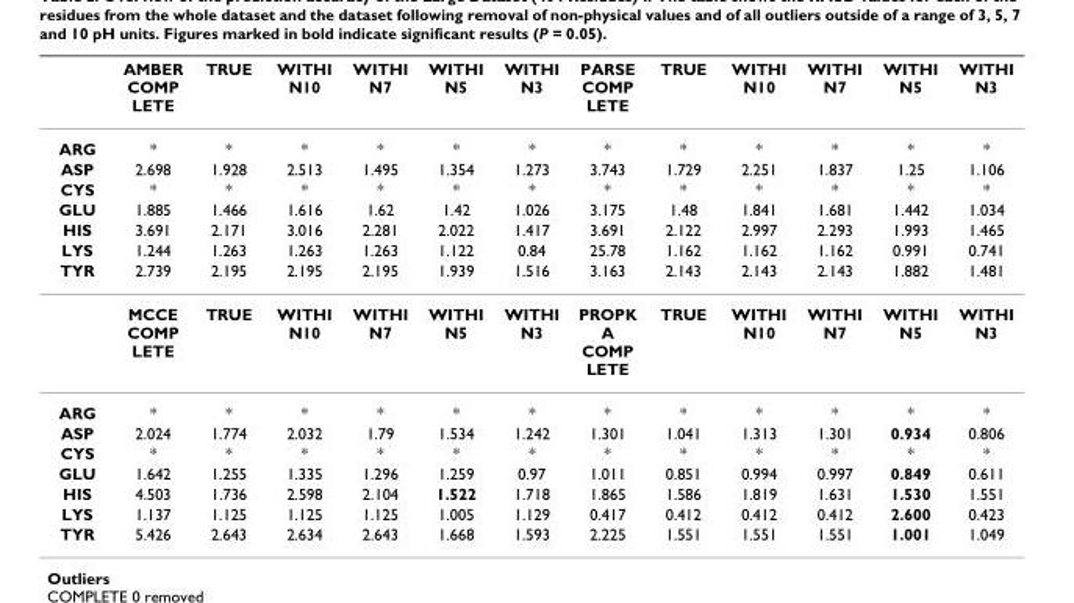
<table><thead><tr><td></td><td>AMBER COMP LETE</td><td>TRUE</td><td>WITHI N10</td><td>WITHI N7</td><td>WITHI N5</td><td>WITHI N3</td><td>PARSE COMP LETE</td><td>TRUE</td><td>WITHI N10</td><td>WITHI N7</td><td>WITHI N5</td><td>WITHI N3</td></tr></thead><tbody><tr><td>ARG</td><td>*</td><td>*</td><td>*</td><td>*</td><td>*</td><td>*</td><td>*</td><td>*</td><td>*</td><td>*</td><td>*</td><td>*</td></tr><tr><td>ASP</td><td>2.698</td><td>1.928</td><td>2.513</td><td>1.495</td><td>1.354</td><td>1.273</td><td>3.743</td><td>1.729</td><td>2.251</td><td>1.837</td><td>1.25</td><td>1.106</td></tr><tr><td>CYS</td><td>*</td><td>*</td><td>*</td><td>*</td><td>*</td><td>*</td><td>*</td><td>*</td><td>*</td><td>*</td><td>*</td><td>*</td></tr><tr><td>GLU</td><td>1.885</td><td>1.466</td><td>1.616</td><td>1.62</td><td>1.42</td><td>1.026</td><td>3.175</td><td>1.48</td><td>1.841</td><td>1.681</td><td>1.442</td><td>1.034</td></tr><tr><td>HIS</td><td>3.691</td><td>2.171</td><td>3.016</td><td>2.281</td><td>2.022</td><td>1.417</td><td>3.691</td><td>2.122</td><td>2.997</td><td>2.293</td><td>1.993</td><td>1.465</td></tr><tr><td>LYS</td><td>1.244</td><td>1.263</td><td>1.263</td><td>1.263</td><td>1.122</td><td>0.84</td><td>25.78</td><td>1.162</td><td>1.162</td><td>1.162</td><td>0.991</td><td>0.741</td></tr><tr><td rowspan="2">TYR</td><td>2.739</td><td>2.195</td><td>2.195</td><td>2.195</td><td>1.939</td><td>1.516</td><td>3.163</td><td>2.143</td><td>2.143</td><td>2.143</td><td>1.882</td><td>1.481</td></tr><tr><td>MCCE COMP LETE</td><td>TRUE</td><td>WITHI N10</td><td>WITHI N7</td><td>WITHI N5</td><td>WITHI N3</td><td>PROPK A COMP LETE</td><td>TRUE</td><td>WITHI N10</td><td>WITHI N7</td><td>WITHI N5</td><td>WITHI N3</td></tr><tr><td>ARG</td><td>*</td><td>*</td><td>*</td><td>*</td><td>*</td><td>*</td><td>*</td><td>*</td><td>*</td><td>*</td><td>*</td><td>*</td></tr><tr><td>ASP</td><td>2.024</td><td>1.774</td><td>2.032</td><td>1.79</td><td>1.534</td><td>1.242</td><td>1.301</td><td>1.041</td><td>1.313</td><td>1.301</td><td>0.934</td><td>0.806</td></tr><tr><td>CYS</td><td>*</td><td>*</td><td>*</td><td>*</td><td>*</td><td>*</td><td>*</td><td>*</td><td>*</td><td>*</td><td>*</td><td>*</td></tr><tr><td>GLU</td><td>1.642</td><td>1.255</td><td>1.335</td><td>1.296</td><td>1.259</td><td>0.97</td><td>1.011</td><td>0.851</td><td>0.994</td><td>0.997</td><td>0.849</td><td>0.611</td></tr><tr><td>HIS</td><td>4.503</td><td>1.736</td><td>2.598</td><td>2.104</td><td>1.522</td><td>1.718</td><td>1.865</td><td>1.586</td><td>1.819</td><td>1.631</td><td>1.530</td><td>1.551</td></tr><tr><td>LYS</td><td>1.137</td><td>1.125</td><td>1.125</td><td>1.125</td><td>1.005</td><td>1.129</td><td>0.417</td><td>0.412</td><td>0.412</td><td>0.412</td><td>2.600</td><td>0.423</td></tr><tr><td>TYR</td><td>5.426</td><td>2.643</td><td>2.634</td><td>2.643</td><td>1.668</td><td>1.593</td><td>2.225</td><td>1.551</td><td>1.551</td><td>1.551</td><td>1.001</td><td>1.049</td></tr></tbody></table>